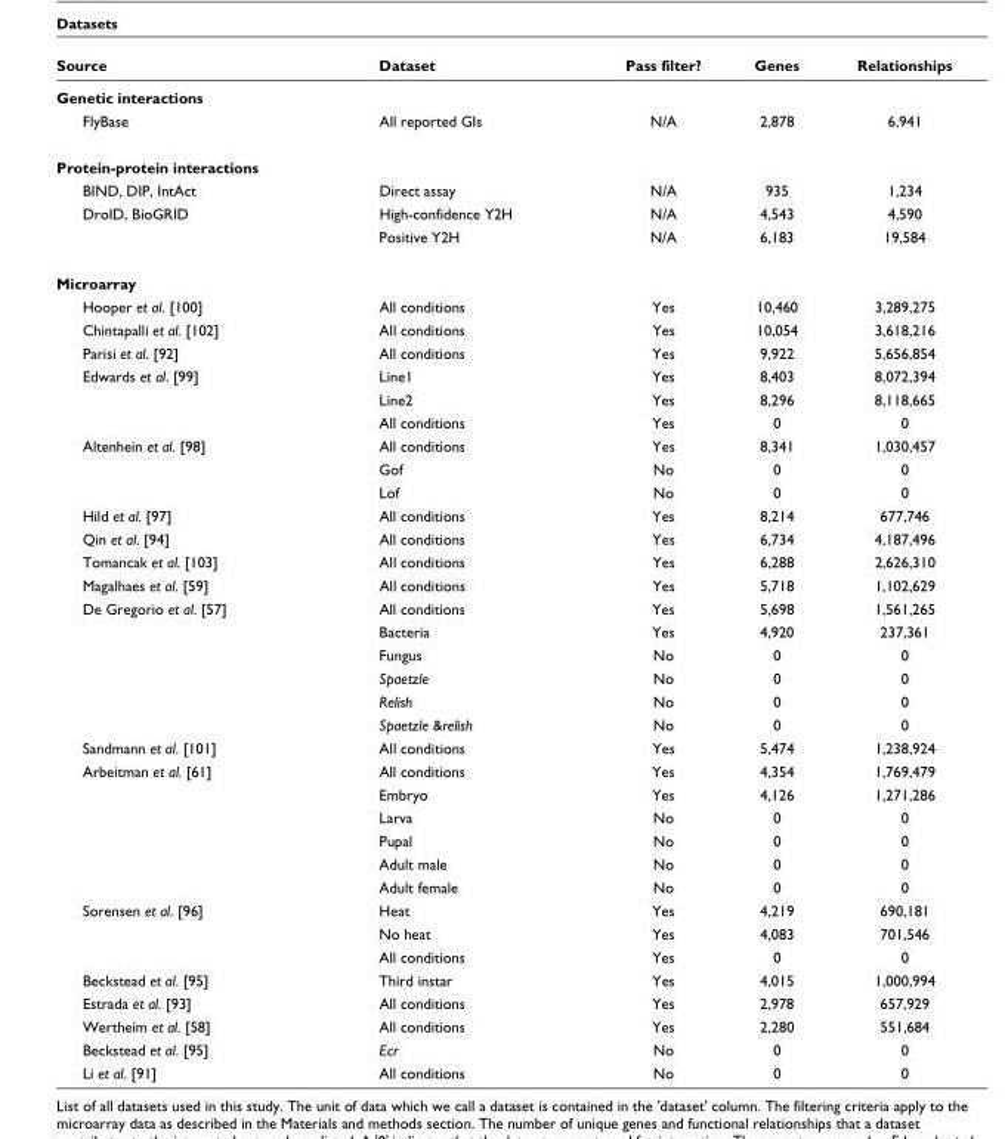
<table><thead><tr><td>Source</td><td>Dataset</td><td>Pass filter?</td><td>Genes</td><td>Relationships</td></tr></thead><tbody><tr><td colspan="5">Genetic interactions</td></tr><tr><td>FlyBase</td><td>All reported GIs</td><td>N/A</td><td>2,878</td><td>6,941</td></tr><tr><td colspan="5">Protein-protein interactions</td></tr><tr><td>BIND, DIP, IntAct</td><td>Direct assay</td><td>N/A</td><td>935</td><td>1,234</td></tr><tr><td rowspan="2">DroID, BioGRID</td><td>High-confidence Y2H</td><td>N/A</td><td>4,543</td><td>4,590</td></tr><tr><td>Positive Y2H</td><td>N/A</td><td>6,183</td><td>19,584</td></tr><tr><td colspan="5">Microarray</td></tr><tr><td>Hooper et al. [100]</td><td>All conditions</td><td>Yes</td><td>10,460</td><td>3,289,275</td></tr><tr><td>Chintapalli et al. [102]</td><td>All conditions</td><td>Yes</td><td>10,054</td><td>3,618,216</td></tr><tr><td>Parisi et al. [92]</td><td>All conditions</td><td>Yes</td><td>9,922</td><td>5,656,854</td></tr><tr><td rowspan="3">Edwards et al. [99]</td><td>Line1</td><td>Yes</td><td>8,403</td><td>8,072,394</td></tr><tr><td>Line2</td><td>Yes</td><td>8,296</td><td>8,118,665</td></tr><tr><td>All conditions</td><td>Yes</td><td>0</td><td>0</td></tr><tr><td rowspan="3">Altenhein et al. [98]</td><td>All conditions</td><td>Yes</td><td>8,341</td><td>1,030,457</td></tr><tr><td>Gof</td><td>No</td><td>0</td><td>0</td></tr><tr><td>Lof</td><td>No</td><td>0</td><td>0</td></tr><tr><td>Hild et al. [97]</td><td>All conditions</td><td>Yes</td><td>8,214</td><td>677,746</td></tr><tr><td>Qin et al. [94]</td><td>All conditions</td><td>Yes</td><td>6,734</td><td>4,187,496</td></tr><tr><td>Tomancak et al. [103]</td><td>All conditions</td><td>Yes</td><td>6,288</td><td>2,626,310</td></tr><tr><td>Magalhaes et al. [59]</td><td>All conditions</td><td>Yes</td><td>5,718</td><td>1,102,629</td></tr><tr><td rowspan="6">De Gregorio et al. [57]</td><td>All conditions</td><td>Yes</td><td>5,698</td><td>1,561,265</td></tr><tr><td>Bacteria</td><td>Yes</td><td>4,920</td><td>237,361</td></tr><tr><td>Fungus</td><td>No</td><td>0</td><td>0</td></tr><tr><td>Spaetzle</td><td>No</td><td>0</td><td>0</td></tr><tr><td>Relish</td><td>No</td><td>0</td><td>0</td></tr><tr><td>Spaetzle &amp;relish</td><td>No</td><td>0</td><td>0</td></tr><tr><td>Sandmann et al. [101]</td><td>All conditions</td><td>Yes</td><td>5,474</td><td>1,238,924</td></tr><tr><td rowspan="6">Arbeitman et al. [61]</td><td>All conditions</td><td>Yes</td><td>4,354</td><td>1,769,479</td></tr><tr><td>Embryo</td><td>Yes</td><td>4,126</td><td>1,271,286</td></tr><tr><td>Larva</td><td>No</td><td>0</td><td>0</td></tr><tr><td>Pupal</td><td>No</td><td>0</td><td>0</td></tr><tr><td>Adult male</td><td>No</td><td>0</td><td>0</td></tr><tr><td>Adult female</td><td>No</td><td>0</td><td>0</td></tr><tr><td rowspan="3">Sorensen et al. [96]</td><td>Heat</td><td>Yes</td><td>4,219</td><td>690,181</td></tr><tr><td>No heat</td><td>Yes</td><td>4,083</td><td>701,546</td></tr><tr><td>All conditions</td><td>Yes</td><td>0</td><td>0</td></tr><tr><td>Beckstead et al. [95]</td><td>Third instar</td><td>Yes</td><td>4,015</td><td>1,000,994</td></tr><tr><td>Estrada et al. [93]</td><td>All conditions</td><td>Yes</td><td>2,978</td><td>657,929</td></tr><tr><td>Wertheim et al. [58]</td><td>All conditions</td><td>Yes</td><td>2,280</td><td>551,684</td></tr><tr><td>Beckstead et al. [95]</td><td>Ecr</td><td>No</td><td>0</td><td>0</td></tr><tr><td>Li et al. [91]</td><td>All conditions</td><td>No</td><td>0</td><td>0</td></tr></tbody></table>